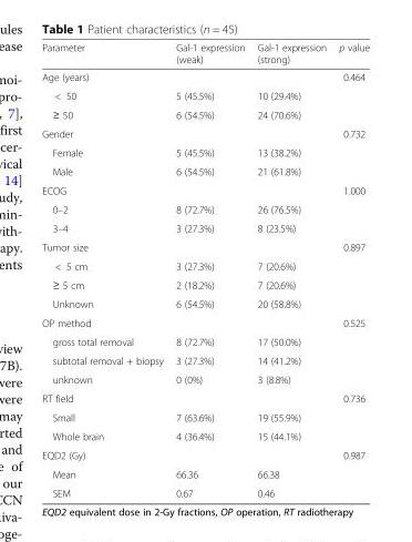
<table><thead><tr><td>Parameter</td><td>Gal-1 expression (weak)</td><td>Gal-1 expression (strong)</td><td>p value</td></tr></thead><tbody><tr><td>Age (years)</td><td></td><td></td><td>0.464</td></tr><tr><td>&lt; 50</td><td>5 (45.5%)</td><td>10 (29.4%)</td><td></td></tr><tr><td>≥ 50</td><td>6 (54.5%)</td><td>24 (70.6%)</td><td></td></tr><tr><td>Gender</td><td></td><td></td><td>0.732</td></tr><tr><td>Female</td><td>5 (45.5%)</td><td>13 (38.2%)</td><td></td></tr><tr><td>Male</td><td>6 (54.5%)</td><td>21 (61.8%)</td><td></td></tr><tr><td>ECOG</td><td></td><td></td><td>1.000</td></tr><tr><td>0–2</td><td>8 (72.7%)</td><td>26 (76.5%)</td><td></td></tr><tr><td>3–4</td><td>3 (27.3%)</td><td>8 (23.5%)</td><td></td></tr><tr><td>Tumor size</td><td></td><td></td><td>0.897</td></tr><tr><td>&lt; 5 cm</td><td>3 (27.3%)</td><td>7 (20.6%)</td><td></td></tr><tr><td>≥ 5 cm</td><td>2 (18.2%)</td><td>7 (20.6%)</td><td></td></tr><tr><td>Unknown</td><td>6 (54.5%)</td><td>20 (58.8%)</td><td></td></tr><tr><td>OP method</td><td></td><td></td><td>0.525</td></tr><tr><td>gross total removal</td><td>8 (72.7%)</td><td>17 (50.0%)</td><td></td></tr><tr><td>subtotal removal + biopsy</td><td>3 (27.3%)</td><td>14 (41.2%)</td><td></td></tr><tr><td>unknown</td><td>0 (0%)</td><td>3 (8.8%)</td><td></td></tr><tr><td>RT field</td><td></td><td></td><td>0.736</td></tr><tr><td>Small</td><td>7 (63.6%)</td><td>19 (55.9%)</td><td></td></tr><tr><td>Whole brain</td><td>4 (36.4%)</td><td>15 (44.1%)</td><td></td></tr><tr><td>EQD2 (Gy)</td><td></td><td></td><td>0.987</td></tr><tr><td>Mean</td><td>66.36</td><td>66.38</td><td></td></tr><tr><td>SEM</td><td>0.67</td><td>0.46</td><td></td></tr></tbody></table>